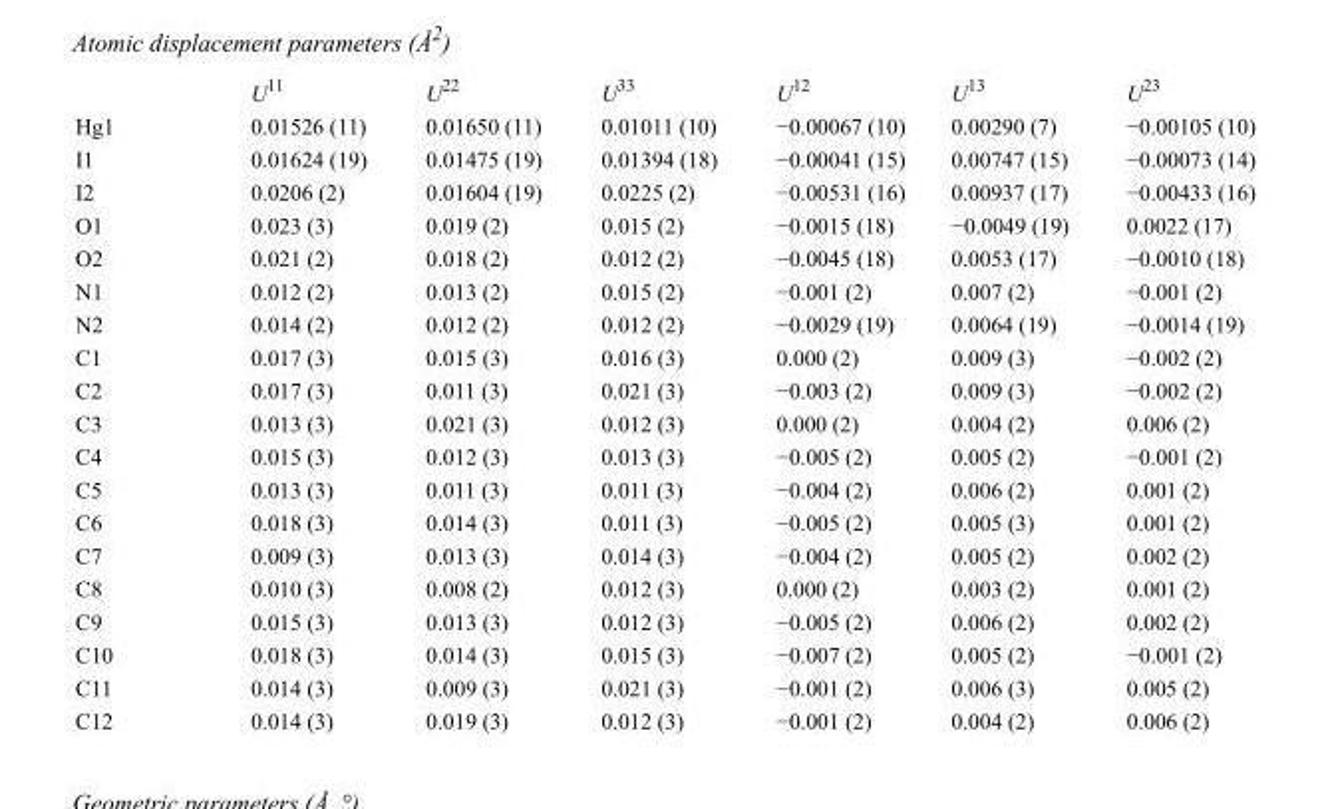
<table><thead><tr><td></td><td>U<sup>11</sup></td><td>U<sup>22</sup></td><td>U<sup>33</sup></td><td>U<sup>12</sup></td><td>U<sup>13</sup></td><td>U<sup>23</sup></td></tr></thead><tbody><tr><td>Hg1</td><td>0.01526 (11)</td><td>0.01650 (11)</td><td>0.01011 (10)</td><td>−0.00067 (10)</td><td>0.00290 (7)</td><td>−0.00105 (10)</td></tr><tr><td>I1</td><td>0.01624 (19)</td><td>0.01475 (19)</td><td>0.01394 (18)</td><td>−0.00041 (15)</td><td>0.00747 (15)</td><td>−0.00073 (14)</td></tr><tr><td>I2</td><td>0.0206 (2)</td><td>0.01604 (19)</td><td>0.0225 (2)</td><td>−0.00531 (16)</td><td>0.00937 (17)</td><td>−0.00433 (16)</td></tr><tr><td>O1</td><td>0.023 (3)</td><td>0.019 (2)</td><td>0.015 (2)</td><td>−0.0015 (18)</td><td>−0.0049 (19)</td><td>0.0022 (17)</td></tr><tr><td>O2</td><td>0.021 (2)</td><td>0.018 (2)</td><td>0.012 (2)</td><td>−0.0045 (18)</td><td>0.0053 (17)</td><td>−0.0010 (18)</td></tr><tr><td>N1</td><td>0.012 (2)</td><td>0.013 (2)</td><td>0.015 (2)</td><td>−0.001 (2)</td><td>0.007 (2)</td><td>−0.001 (2)</td></tr><tr><td>N2</td><td>0.014 (2)</td><td>0.012 (2)</td><td>0.012 (2)</td><td>−0.0029 (19)</td><td>0.0064 (19)</td><td>−0.0014 (19)</td></tr><tr><td>C1</td><td>0.017 (3)</td><td>0.015 (3)</td><td>0.016 (3)</td><td>0.000 (2)</td><td>0.009 (3)</td><td>−0.002 (2)</td></tr><tr><td>C2</td><td>0.017 (3)</td><td>0.011 (3)</td><td>0.021 (3)</td><td>−0.003 (2)</td><td>0.009 (3)</td><td>−0.002 (2)</td></tr><tr><td>C3</td><td>0.013 (3)</td><td>0.021 (3)</td><td>0.012 (3)</td><td>0.000 (2)</td><td>0.004 (2)</td><td>0.006 (2)</td></tr><tr><td>C4</td><td>0.015 (3)</td><td>0.012 (3)</td><td>0.013 (3)</td><td>−0.005 (2)</td><td>0.005 (2)</td><td>−0.001 (2)</td></tr><tr><td>C5</td><td>0.013 (3)</td><td>0.011 (3)</td><td>0.011 (3)</td><td>−0.004 (2)</td><td>0.006 (2)</td><td>0.001 (2)</td></tr><tr><td>C6</td><td>0.018 (3)</td><td>0.014 (3)</td><td>0.011 (3)</td><td>−0.005 (2)</td><td>0.005 (3)</td><td>0.001 (2)</td></tr><tr><td>C7</td><td>0.009 (3)</td><td>0.013 (3)</td><td>0.014 (3)</td><td>−0.004 (2)</td><td>0.005 (2)</td><td>0.002 (2)</td></tr><tr><td>C8</td><td>0.010 (3)</td><td>0.008 (2)</td><td>0.012 (3)</td><td>0.000 (2)</td><td>0.003 (2)</td><td>0.001 (2)</td></tr><tr><td>C9</td><td>0.015 (3)</td><td>0.013 (3)</td><td>0.012 (3)</td><td>−0.005 (2)</td><td>0.006 (2)</td><td>0.002 (2)</td></tr><tr><td>C10</td><td>0.018 (3)</td><td>0.014 (3)</td><td>0.015 (3)</td><td>−0.007 (2)</td><td>0.005 (2)</td><td>−0.001 (2)</td></tr><tr><td>C11</td><td>0.014 (3)</td><td>0.009 (3)</td><td>0.021 (3)</td><td>−0.001 (2)</td><td>0.006 (3)</td><td>0.005 (2)</td></tr><tr><td>C12</td><td>0.014 (3)</td><td>0.019 (3)</td><td>0.012 (3)</td><td>−0.001 (2)</td><td>0.004 (2)</td><td>0.006 (2)</td></tr></tbody></table>